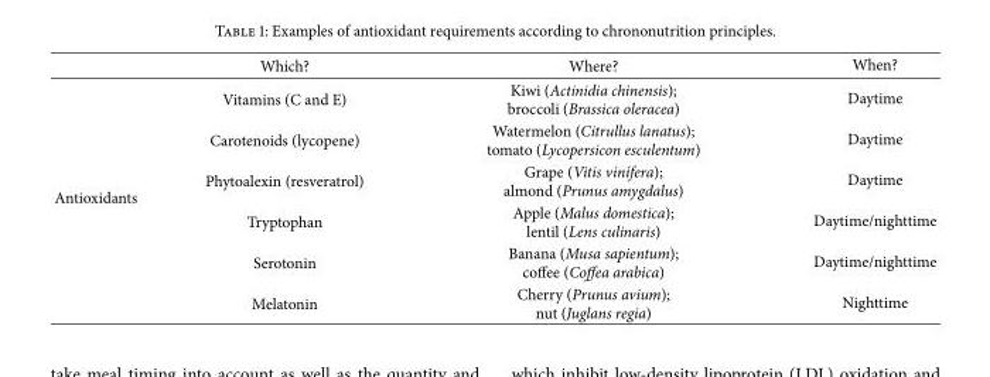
<table><thead><tr><td></td><td>Which?</td><td>Where?</td><td>When?</td></tr></thead><tbody><tr><td rowspan="6">Antioxidants</td><td>Vitamins (C and E)</td><td>Kiwi (Actinidia chinensis); broccoli (Brassica oleracea)</td><td>Daytime</td></tr><tr><td>Carotenoids (lycopene)</td><td>Watermelon (Citrullus lanatus); tomato (Lycopersicon esculentum)</td><td>Daytime</td></tr><tr><td>Phytoalexin (resveratrol)</td><td>Grape (Vitis vin´ıfera); almond (Prunus amygdalus)</td><td>Daytime</td></tr><tr><td>Tryptophan</td><td>Apple (Malus domestica); lentil (Lens culinaris)</td><td>Daytime/nighttime</td></tr><tr><td>Serotonin</td><td>Banana (Musa sapientum); coffee (Coffea arabica)</td><td>Daytime/nighttime</td></tr><tr><td>Melatonin</td><td>Cherry (Prunus avium); nut (Juglans regia)</td><td>Nighttime</td></tr></tbody></table>